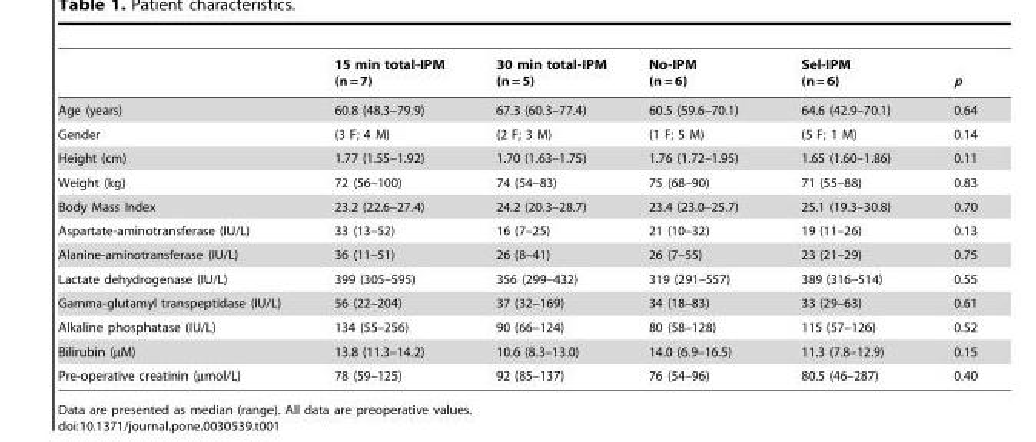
<table><thead><tr><td></td><td>15 min total-IPM (n = 7)</td><td>30 min total-IPM (n = 5)</td><td>No-IPM (n = 6)</td><td>Sel-IPM (n = 6)</td><td>p</td></tr></thead><tbody><tr><td>Age (years)</td><td>60.8 (48.3–79.9)</td><td>67.3 (60.3–77.4)</td><td>60.5 (59.6–70.1)</td><td>64.6 (42.9–70.1)</td><td>0.64</td></tr><tr><td>Gender</td><td>(3 F; 4 M)</td><td>(2 F; 3 M)</td><td>(1 F; 5 M)</td><td>(5 F; 1 M)</td><td>0.14</td></tr><tr><td>Height (cm)</td><td>1.77 (1.55–1.92)</td><td>1.70 (1.63–1.75)</td><td>1.76 (1.72–1.95)</td><td>1.65 (1.60–1.86)</td><td>0.11</td></tr><tr><td>Weight (kg)</td><td>72 (56–100)</td><td>74 (54–83)</td><td>75 (68–90)</td><td>71 (55–88)</td><td>0.83</td></tr><tr><td>Body Mass Index</td><td>23.2 (22.6–27.4)</td><td>24.2 (20.3–28.7)</td><td>23.4 (23.0–25.7)</td><td>25.1 (19.3–30.8)</td><td>0.70</td></tr><tr><td>Aspartate-aminotransferase (IU/L)</td><td>33 (13–52)</td><td>16 (7–25)</td><td>21 (10–32)</td><td>19 (11–26)</td><td>0.13</td></tr><tr><td>Alanine-aminotransferase (IU/L)</td><td>36 (11–51)</td><td>26 (8–41)</td><td>26 (7–55)</td><td>23 (21–29)</td><td>0.75</td></tr><tr><td>Lactate dehydrogenase (IU/L)</td><td>399 (305–595)</td><td>356 (299–432)</td><td>319 (291–557)</td><td>389 (316–514)</td><td>0.55</td></tr><tr><td>Gamma-glutamyl transpeptidase (IU/L)</td><td>56 (22–204)</td><td>37 (32–169)</td><td>34 (18–83)</td><td>33 (29–63)</td><td>0.61</td></tr><tr><td>Alkaline phosphatase (IU/L)</td><td>134 (55–256)</td><td>90 (66–124)</td><td>80 (58–128)</td><td>115 (57–126)</td><td>0.52</td></tr><tr><td>Bilirubin (µM)</td><td>13.8 (11.3–14.2)</td><td>10.6 (8.3–13.0)</td><td>14.0 (6.9–16.5)</td><td>11.3 (7.8–12.9)</td><td>0.15</td></tr><tr><td>Pre-operative creatinin (µmol/L)</td><td>78 (59–125)</td><td>92 (85–137)</td><td>76 (54–96)</td><td>80.5 (46–287)</td><td>0.40</td></tr></tbody></table>